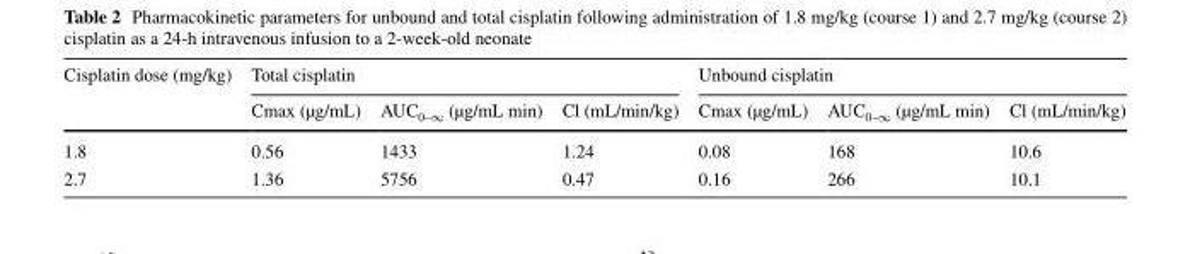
<table><thead><tr><td rowspan="2">Cisplatin dose (mg/kg)</td><td colspan="3">Total cisplatin</td><td colspan="3">Unbound cisplatin</td></tr><tr><td>Cmax (µg/mL)</td><td>AUC<sub>0–∞</sub> (µg/mL min)</td><td>Cl (mL/min/kg)</td><td>Cmax (µg/mL)</td><td>AUC<sub>0–∞</sub> (µg/mL min)</td><td>Cl (mL/min/kg)</td></tr></thead><tbody><tr><td>1.8</td><td>0.56</td><td>1433</td><td>1.24</td><td>0.08</td><td>168</td><td>10.6</td></tr><tr><td>2.7</td><td>1.36</td><td>5756</td><td>0.47</td><td>0.16</td><td>266</td><td>10.1</td></tr></tbody></table>